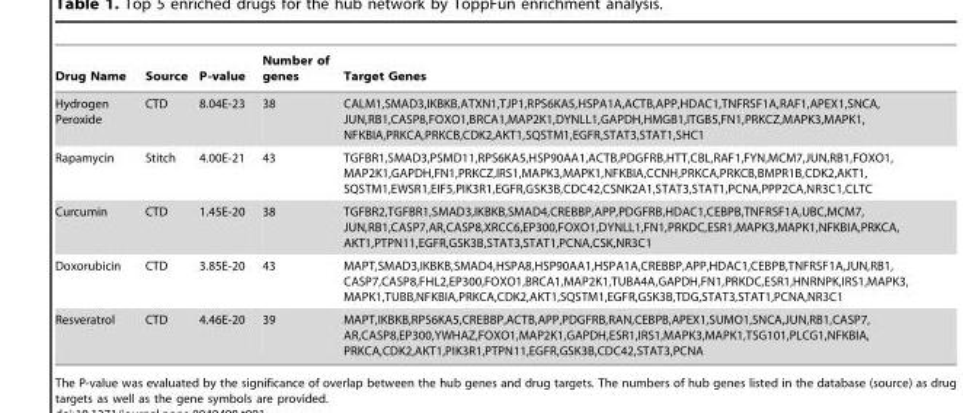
<table><thead><tr><td>Drug Name</td><td>Source</td><td>P-value</td><td>Number of genes</td><td>Target Genes</td></tr></thead><tbody><tr><td>Hydrogen Peroxide</td><td>CTD</td><td>8.04E-23</td><td>38</td><td>CALM1,SMAD3,IKBKB,ATXN1,TJP1,RPS6KA5,HSPA1A,ACTB,APP,HDAC1,TNFRSF1A,RAF1,APEX1,SNCA, JUN,RB1,CASP8,FOXO1,BRCA1,MAP2K1,DYNLL1,GAPDH,HMGB1,ITGB5,FN1,PRKCZ,MAPK3,MAPK1, NFKBIA,PRKCA,PRKCB,CDK2,AKT1,SQSTM1,EGFR,STAT3,STAT1,SHC1</td></tr><tr><td>Rapamycin</td><td>Stitch</td><td>4.00E-21</td><td>43</td><td>TGFBR1,SMAD3,PSMD11,RPS6KA5,HSP90AA1,ACTB,PDGFRB,HTT,CBL,RAF1,FYN,MCM7,JUN,RB1,FOXO1, MAP2K1,GAPDH,FN1,PRKCZ,IRS1,MAPK3,MAPK1,NFKBIA,CCNH,PRKCA,PRKCB,BMPR1B,CDK2,AKT1, SQSTM1,EWSR1,EIF5,PIK3R1,EGFR,GSK3B,CDC42,CSNK2A1,STAT3,STAT1,PCNA,PPP2CA,NR3C1,CLTC</td></tr><tr><td>Curcumin</td><td>CTD</td><td>1.45E-20</td><td>38</td><td>TGFBR2,TGFBR1,SMAD3,IKBKB,SMAD4,CREBBP,APP,PDGFRB,HDAC1,CEBPB,TNFRSF1A,UBC,MCM7, JUN,RB1,CASP7,AR,CASP8,XRCC6,EP300,FOXO1,DYNLL1,FN1,PRKDC,ESR1,MAPK3,MAPK1,NFKBIA,PRKCA, AKT1,PTPN11,EGFR,GSK3B,STAT3,STAT1,PCNA,CSK,NR3C1</td></tr><tr><td>Doxorubicin</td><td>CTD</td><td>3.85E-20</td><td>43</td><td>MAPT,SMAD3,IKBKB,SMAD4,HSPA8,HSP90AA1,HSPA1A,CREBBP,APP,HDAC1,CEBPB,TNFRSF1A,JUN,RB1, CASP7,CASP8,FHL2,EP300,FOXO1,BRCA1,MAP2K1,TUBA4A,GAPDH,FN1,PRKDC,ESR1,HNRNPK,IRS1,MAPK3, MAPK1,TUBB,NFKBIA,PRKCA,CDK2,AKT1,SQSTM1,EGFR,GSK3B,TDG,STAT3,STAT1,PCNA,NR3C1</td></tr><tr><td>Resveratrol</td><td>CTD</td><td>4.46E-20</td><td>39</td><td>MAPT,IKBKB,RPS6KA5,CREBBP,ACTB,APP,PDGFRB,RAN,CEBPB,APEX1,SUMO1,SNCA,JUN,RB1,CASP7, AR,CASP8,EP300,YWHAZ,FOXO1,MAP2K1,GAPDH,ESR1,IRS1,MAPK3,MAPK1,TSG101,PLCG1,NFKBIA, PRKCA,CDK2,AKT1,PIK3R1,PTPN11,EGFR,GSK3B,CDC42,STAT3,PCNA</td></tr></tbody></table>